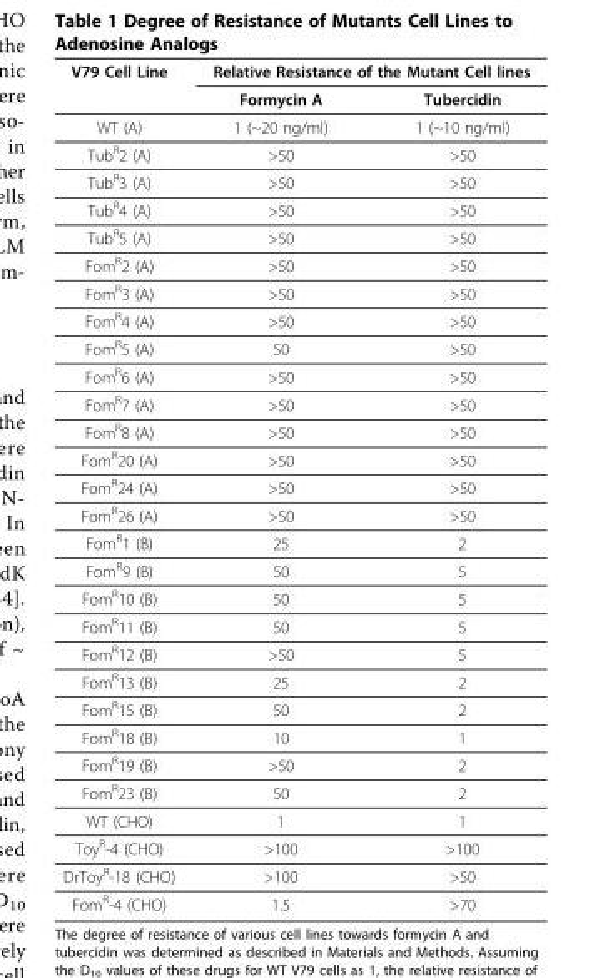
<table><thead><tr><td rowspan="2">V79 Cell Line</td><td colspan="2">Relative Resistance of the Mutant Cell lines</td></tr><tr><td>Formycin A</td><td>Tubercidin</td></tr></thead><tbody><tr><td>WT (A)</td><td>1 (~20 ng/ml)</td><td>1 (~10 ng/ml)</td></tr><tr><td>Tub<sup>R</sup>2 (A)</td><td>&gt;50</td><td>&gt;50</td></tr><tr><td>Tub<sup>R</sup>3 (A)</td><td>&gt;50</td><td>&gt;50</td></tr><tr><td>Tub<sup>R</sup>4 (A)</td><td>&gt;50</td><td>&gt;50</td></tr><tr><td>Tub<sup>R</sup>5 (A)</td><td>&gt;50</td><td>&gt;50</td></tr><tr><td>Fom<sup>R</sup>2 (A)</td><td>&gt;50</td><td>&gt;50</td></tr><tr><td>Fom<sup>R</sup>3 (A)</td><td>&gt;50</td><td>&gt;50</td></tr><tr><td>Fom<sup>R</sup>4 (A)</td><td>&gt;50</td><td>&gt;50</td></tr><tr><td>Fom<sup>R</sup>5 (A)</td><td>50</td><td>&gt;50</td></tr><tr><td>Fom<sup>R</sup>6 (A)</td><td>&gt;50</td><td>&gt;50</td></tr><tr><td>Fom<sup>R</sup>7 (A)</td><td>&gt;50</td><td>&gt;50</td></tr><tr><td>Fom<sup>R</sup>8 (A)</td><td>&gt;50</td><td>&gt;50</td></tr><tr><td>Fom<sup>R</sup>20 (A)</td><td>&gt;50</td><td>&gt;50</td></tr><tr><td>Fom<sup>R</sup>24 (A)</td><td>&gt;50</td><td>&gt;50</td></tr><tr><td>Fom<sup>R</sup>26 (A)</td><td>&gt;50</td><td>&gt;50</td></tr><tr><td>Fom<sup>R</sup>1 (B)</td><td>25</td><td>2</td></tr><tr><td>Fom<sup>R</sup>9 (B)</td><td>50</td><td>5</td></tr><tr><td>Fom<sup>R</sup>10 (B)</td><td>50</td><td>5</td></tr><tr><td>Fom<sup>R</sup>11 (B)</td><td>50</td><td>5</td></tr><tr><td>Fom<sup>R</sup>12 (B)</td><td>&gt;50</td><td>5</td></tr><tr><td>Fom<sup>R</sup>13 (B)</td><td>25</td><td>2</td></tr><tr><td>Fom<sup>R</sup>15 (B)</td><td>50</td><td>2</td></tr><tr><td>Fom<sup>R</sup>18 (B)</td><td>10</td><td>1</td></tr><tr><td>Fom<sup>R</sup>19 (B)</td><td>&gt;50</td><td>2</td></tr><tr><td>Fom<sup>R</sup>23 (B)</td><td>50</td><td>2</td></tr><tr><td>WT (CHO)</td><td>1</td><td>1</td></tr><tr><td>Toy<sup>R</sup>-4 (CHO)</td><td>&gt;100</td><td>&gt;100</td></tr><tr><td>DrToy<sup>R</sup>-18 (CHO)</td><td>&gt;100</td><td>&gt;50</td></tr><tr><td>Fom<sup>R</sup>-4 (CHO)</td><td>1.5</td><td>&gt;70</td></tr></tbody></table>